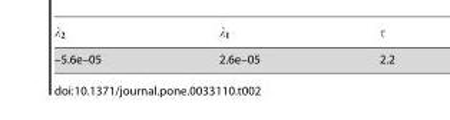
<table><tbody><tr><td>–5.6e–05</td><td>2.6e–05</td><td>2.2</td></tr></tbody></table>